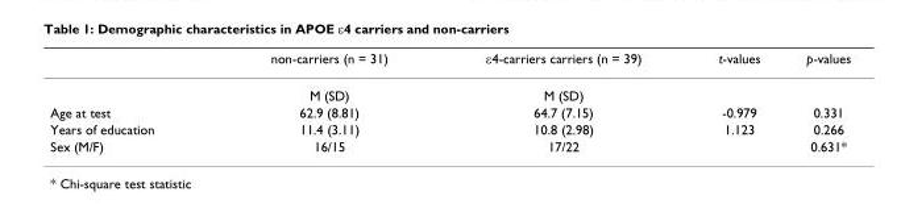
<table><thead><tr><td></td><td>non-carriers (n = 31)</td><td>ε4-carriers carriers (n = 39)</td><td>t-values</td><td>p-values</td></tr></thead><tbody><tr><td></td><td>M (SD)</td><td>M (SD)</td><td></td><td></td></tr><tr><td>Age at test</td><td>62.9 (8.81)</td><td>64.7 (7.15)</td><td>-0.979</td><td>0.331</td></tr><tr><td>Years of education</td><td>11.4 (3.11)</td><td>10.8 (2.98)</td><td>1.123</td><td>0.266</td></tr><tr><td>Sex (M/F)</td><td>16/15</td><td>17/22</td><td></td><td>0.631*</td></tr></tbody></table>